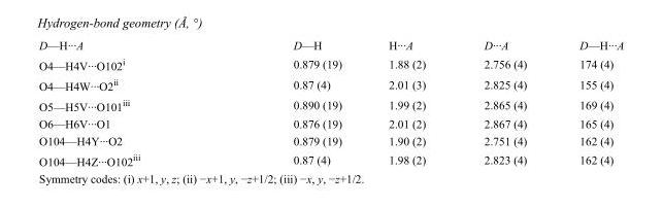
<table><tbody><tr><td>D—H···A</td><td>D—H</td><td>H···A</td><td>D···A</td><td>D—H···A</td></tr><tr><td>O4—H4V···O102<sup>i</sup></td><td>0.879 (19)</td><td>1.88 (2)</td><td>2.756 (4)</td><td>174 (4)</td></tr><tr><td>O4—H4W···O2<sup>ii</sup></td><td>0.87 (4)</td><td>2.01 (3)</td><td>2.825 (4)</td><td>155 (4)</td></tr><tr><td>O5—H5V···O101<sup>iii</sup></td><td>0.890 (19)</td><td>1.99 (2)</td><td>2.865 (4)</td><td>169 (4)</td></tr><tr><td>O6—H6V···O1</td><td>0.876 (19)</td><td>2.01 (2)</td><td>2.867 (4)</td><td>165 (4)</td></tr><tr><td>O104—H4Y···O2</td><td>0.879 (19)</td><td>1.90 (2)</td><td>2.751 (4)</td><td>162 (4)</td></tr><tr><td>O104—H4Z···O102<sup>iii</sup></td><td>0.87 (4)</td><td>1.98 (2)</td><td>2.823 (4)</td><td>162 (4)</td></tr></tbody></table>